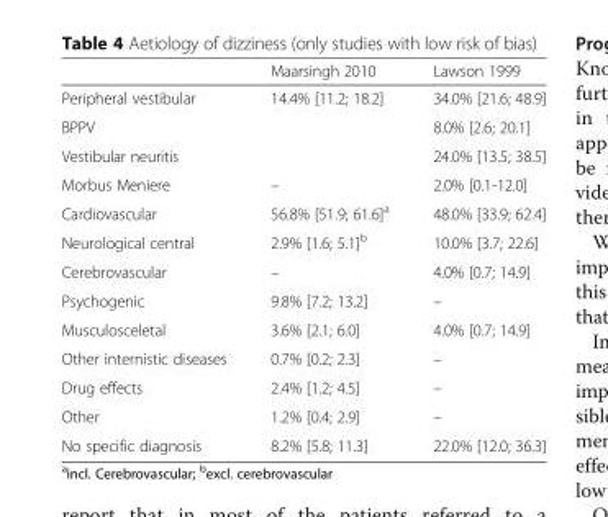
<table><thead><tr><td></td><td>Maarsingh 2010</td><td>Lawson 1999</td></tr></thead><tbody><tr><td>Peripheral vestibular</td><td>14.4% [11.2; 18.2]</td><td>34.0% [21.6; 48.9]</td></tr><tr><td>BPPV</td><td></td><td>8.0% [2.6; 20.1]</td></tr><tr><td>Vestibular neuritis</td><td></td><td>24.0% [13.5; 38.5]</td></tr><tr><td>Morbus Meniere</td><td>–</td><td>2.0% [0.1-12.0]</td></tr><tr><td>Cardiovascular</td><td>56.8% [51.9; 61.6]<sup>a</sup></td><td>48.0% [33.9; 62.4]</td></tr><tr><td>Neurological central</td><td>2.9% [1.6; 5.1]<sup>b</sup></td><td>10.0% [3.7; 22.6]</td></tr><tr><td>Cerebrovascular</td><td>–</td><td>4.0% [0.7; 14.9]</td></tr><tr><td>Psychogenic</td><td>9.8% [7.2; 13.2]</td><td>–</td></tr><tr><td>Musculosceletal</td><td>3.6% [2.1; 6.0]</td><td>4.0% [0.7; 14.9]</td></tr><tr><td>Other internistic diseases</td><td>0.7% [0.2; 2.3]</td><td>–</td></tr><tr><td>Drug effects</td><td>2.4% [1.2; 4.5]</td><td>–</td></tr><tr><td>Other</td><td>1.2% [0.4; 2.9]</td><td>–</td></tr><tr><td>No specific diagnosis</td><td>8.2% [5.8; 11.3]</td><td>22.0% [12.0; 36.3]</td></tr></tbody></table>